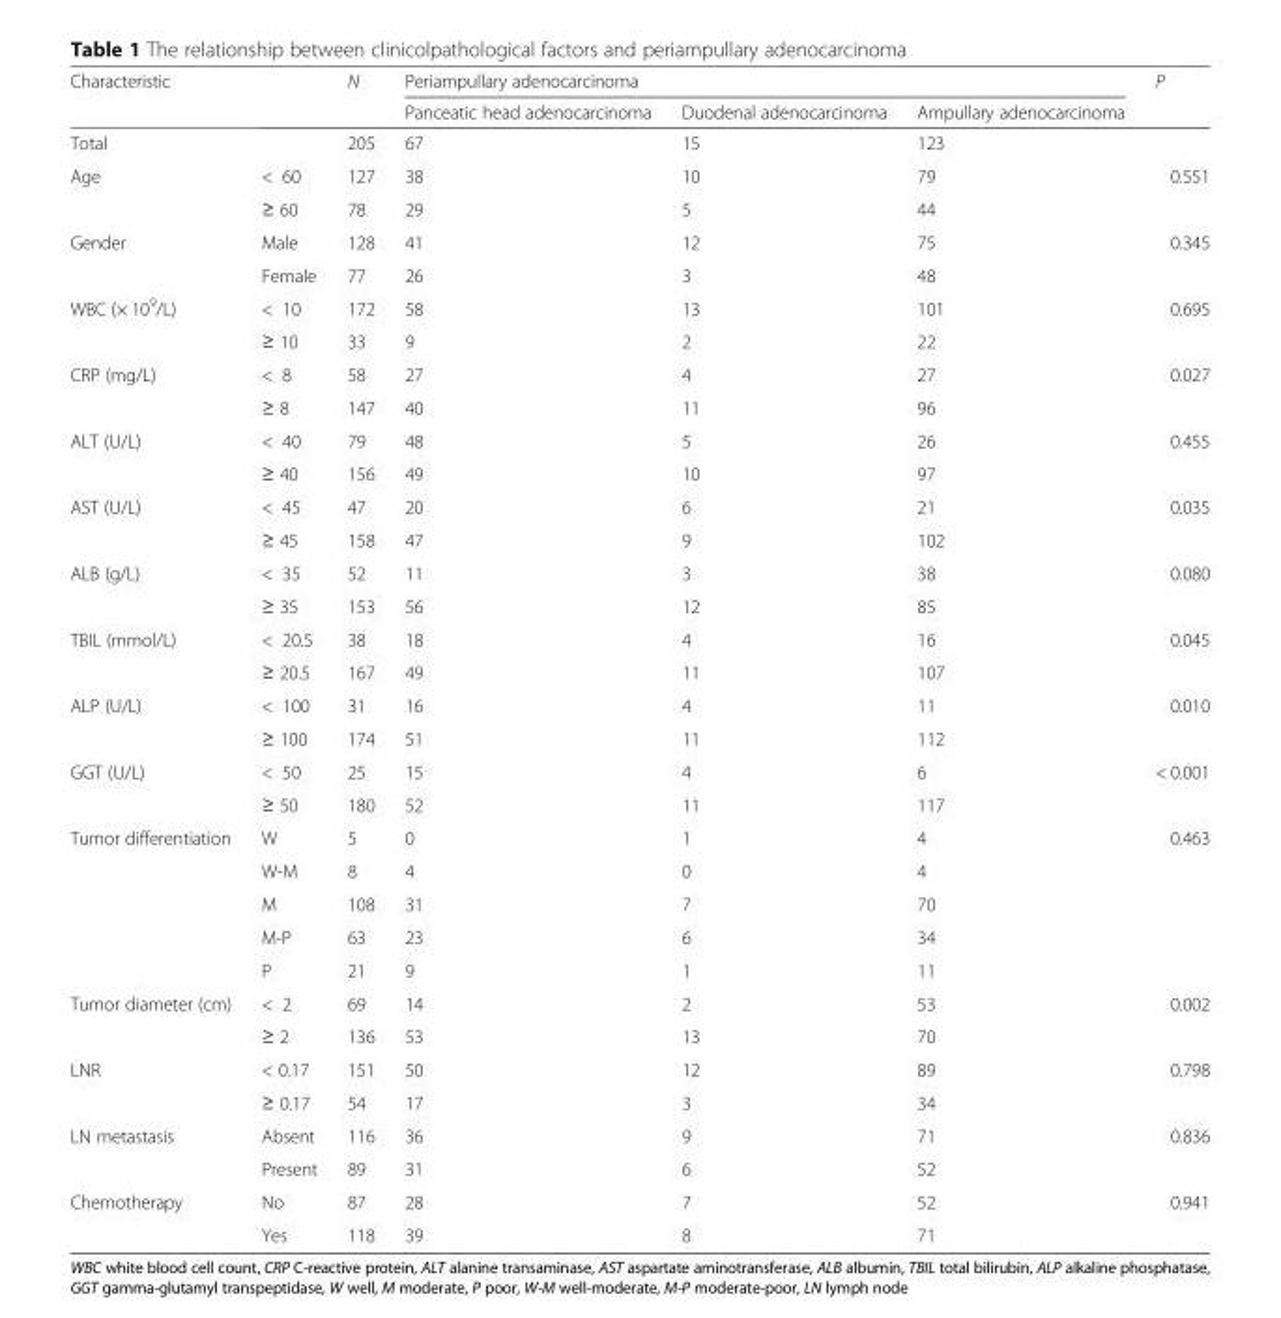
<table><thead><tr><td rowspan="2">Characteristic</td><td rowspan="2"></td><td rowspan="2">N</td><td colspan="3">Periampullary adenocarcinoma</td><td rowspan="2">P</td></tr><tr><td>Panceatic head adenocarcinoma</td><td>Duodenal adenocarcinoma</td><td>Ampullary adenocarcinoma</td></tr></thead><tbody><tr><td>Total</td><td></td><td>205</td><td>67</td><td>15</td><td>123</td><td></td></tr><tr><td rowspan="2">Age</td><td>&lt; 60</td><td>127</td><td>38</td><td>10</td><td>79</td><td rowspan="2">0.551</td></tr><tr><td>≥ 60</td><td>78</td><td>29</td><td>5</td><td>44</td></tr><tr><td rowspan="2">Gender</td><td>Male</td><td>128</td><td>41</td><td>12</td><td>75</td><td rowspan="2">0.345</td></tr><tr><td>Female</td><td>77</td><td>26</td><td>3</td><td>48</td></tr><tr><td rowspan="2">WBC (× 10<sup>9</sup>/L)</td><td>&lt; 10</td><td>172</td><td>58</td><td>13</td><td>101</td><td rowspan="2">0.695</td></tr><tr><td>≥ 10</td><td>33</td><td>9</td><td>2</td><td>22</td></tr><tr><td rowspan="2">CRP (mg/L)</td><td>&lt; 8</td><td>58</td><td>27</td><td>4</td><td>27</td><td rowspan="2">0.027</td></tr><tr><td>≥ 8</td><td>147</td><td>40</td><td>11</td><td>96</td></tr><tr><td rowspan="2">ALT (U/L)</td><td>&lt; 40</td><td>79</td><td>48</td><td>5</td><td>26</td><td rowspan="2">0.455</td></tr><tr><td>≥ 40</td><td>156</td><td>49</td><td>10</td><td>97</td></tr><tr><td rowspan="2">AST (U/L)</td><td>&lt; 45</td><td>47</td><td>20</td><td>6</td><td>21</td><td rowspan="2">0.035</td></tr><tr><td>≥ 45</td><td>158</td><td>47</td><td>9</td><td>102</td></tr><tr><td rowspan="2">ALB (g/L)</td><td>&lt; 35</td><td>52</td><td>11</td><td>3</td><td>38</td><td rowspan="2">0.080</td></tr><tr><td>≥ 35</td><td>153</td><td>56</td><td>12</td><td>85</td></tr><tr><td rowspan="2">TBIL (mmol/L)</td><td>&lt; 20.5</td><td>38</td><td>18</td><td>4</td><td>16</td><td rowspan="2">0.045</td></tr><tr><td>≥ 20.5</td><td>167</td><td>49</td><td>11</td><td>107</td></tr><tr><td rowspan="2">ALP (U/L)</td><td>&lt; 100</td><td>31</td><td>16</td><td>4</td><td>11</td><td rowspan="2">0.010</td></tr><tr><td>≥ 100</td><td>174</td><td>51</td><td>11</td><td>112</td></tr><tr><td rowspan="2">GGT (U/L)</td><td>&lt; 50</td><td>25</td><td>15</td><td>4</td><td>6</td><td rowspan="2">&lt; 0.001</td></tr><tr><td>≥ 50</td><td>180</td><td>52</td><td>11</td><td>117</td></tr><tr><td rowspan="5">Tumor differentiation</td><td>W</td><td>5</td><td>0</td><td>1</td><td>4</td><td rowspan="5">0.463</td></tr><tr><td>W-M</td><td>8</td><td>4</td><td>0</td><td>4</td></tr><tr><td>M</td><td>108</td><td>31</td><td>7</td><td>70</td></tr><tr><td>M-P</td><td>63</td><td>23</td><td>6</td><td>34</td></tr><tr><td>P</td><td>21</td><td>9</td><td>1</td><td>11</td></tr><tr><td rowspan="2">Tumor diameter (cm)</td><td>&lt; 2</td><td>69</td><td>14</td><td>2</td><td>53</td><td rowspan="2">0.002</td></tr><tr><td>≥ 2</td><td>136</td><td>53</td><td>13</td><td>70</td></tr><tr><td rowspan="2">LNR</td><td>&lt; 0.17</td><td>151</td><td>50</td><td>12</td><td>89</td><td rowspan="2">0.798</td></tr><tr><td>≥ 0.17</td><td>54</td><td>17</td><td>3</td><td>34</td></tr><tr><td rowspan="2">LN metastasis</td><td>Absent</td><td>116</td><td>36</td><td>9</td><td>71</td><td rowspan="2">0.836</td></tr><tr><td>Present</td><td>89</td><td>31</td><td>6</td><td>52</td></tr><tr><td rowspan="2">Chemotherapy</td><td>No</td><td>87</td><td>28</td><td>7</td><td>52</td><td rowspan="2">0.941</td></tr><tr><td>Yes</td><td>118</td><td>39</td><td>8</td><td>71</td></tr></tbody></table>